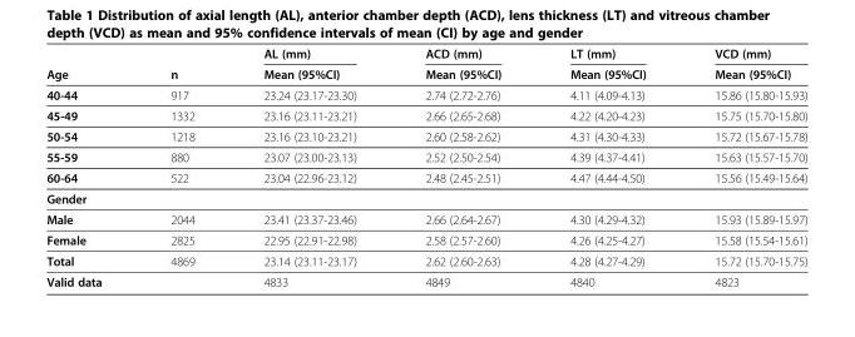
<table><thead><tr><td rowspan="2">Age</td><td rowspan="2">n</td><td rowspan="2">AL (mm) Mean (95%CI)</td><td rowspan="2">ACD (mm) Mean (95%CI)</td><td rowspan="2">LT (mm) Mean (95%CI)</td><td rowspan="2">VCD (mm) Mean (95%CI)</td></tr><tr></tr></thead><tbody><tr><td>40-44</td><td>917</td><td>23.24 (23.17-23.30)</td><td>2.74 (2.72-2.76)</td><td>4.11 (4.09-4.13)</td><td>15.86 (15.80-15.93)</td></tr><tr><td>45-49</td><td>1332</td><td>23.16 (23.11-23.21)</td><td>2.66 (2.65-2.68)</td><td>4.22 (4.20-4.23)</td><td>15.75 (15.70-15.80)</td></tr><tr><td>50-54</td><td>1218</td><td>23.16 (23.10-23.21)</td><td>2.60 (2.58-2.62)</td><td>4.31 (4.30-4.33)</td><td>15.72 (15.67-15.78)</td></tr><tr><td>55-59</td><td>880</td><td>23.07 (23.00-23.13)</td><td>2.52 (2.50-2.54)</td><td>4.39 (4.37-4.41)</td><td>15.63 (15.57-15.70)</td></tr><tr><td>60-64</td><td>522</td><td>23.04 (22.96-23.12)</td><td>2.48 (2.45-2.51)</td><td>4.47 (4.44-4.50)</td><td>15.56 (15.49-15.64)</td></tr><tr><td colspan="6">Gender</td></tr><tr><td>Male</td><td>2044</td><td>23.41 (23.37-23.46)</td><td>2.66 (2.64-2.67)</td><td>4.30 (4.29-4.32)</td><td>15.93 (15.89-15.97)</td></tr><tr><td>Female</td><td>2825</td><td>22.95 (22.91-22.98)</td><td>2.58 (2.57-2.60)</td><td>4.26 (4.25-4.27)</td><td>15.58 (15.54-15.61)</td></tr><tr><td>Total</td><td>4869</td><td>23.14 (23.11-23.17)</td><td>2.62 (2.60-2.63)</td><td>4.28 (4.27-4.29)</td><td>15.72 (15.70-15.75)</td></tr><tr><td>Valid data</td><td></td><td>4833</td><td>4849</td><td>4840</td><td>4823</td></tr></tbody></table>